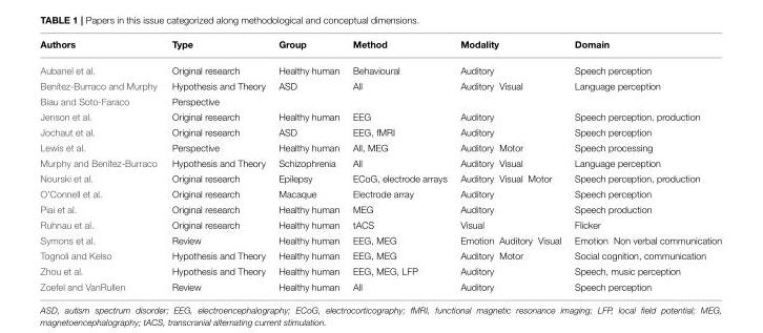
<table><thead><tr><td>Authors</td><td>Type</td><td>Group</td><td>Method</td><td>Modality</td><td>Domain</td></tr></thead><tbody><tr><td>Aubanel et al.</td><td>Original research</td><td>Healthy human</td><td>Behavioural</td><td>Auditory</td><td>Speech perception</td></tr><tr><td>Benítez-Burraco and Murphy</td><td>Hypothesis and Theory</td><td>ASD</td><td>All</td><td>Auditory Visual</td><td>Language perception</td></tr><tr><td>Biau and Soto-Faraco</td><td>Perspective</td><td></td><td></td><td></td><td></td></tr><tr><td>Jenson et al.</td><td>Original research</td><td>Healthy human</td><td>EEG</td><td>Auditory</td><td>Speech perception, production</td></tr><tr><td>Jochaut et al.</td><td>Original research</td><td>ASD</td><td>EEG, fMRI</td><td>Auditory</td><td>Speech perception</td></tr><tr><td>Lewis et al.</td><td>Perspective</td><td>Healthy human</td><td>All, MEG</td><td>Auditory Motor</td><td>Speech processing</td></tr><tr><td>Murphy and Benítez-Burraco</td><td>Hypothesis and Theory</td><td>Schizophrenia</td><td>All</td><td>Auditory Visual</td><td>Language perception</td></tr><tr><td>Nourski et al.</td><td>Original research</td><td>Epilepsy</td><td>ECoG, electrode arrays</td><td>Auditory Visual Motor</td><td>Speech perception, production</td></tr><tr><td>O’Connell et al.</td><td>Original research</td><td>Macaque</td><td>Electrode array</td><td>Auditory</td><td>Speech perception</td></tr><tr><td>Piai et al.</td><td>Original research</td><td>Healthy human</td><td>MEG</td><td>Auditory</td><td>Speech production</td></tr><tr><td>Ruhnau et al.</td><td>Original research</td><td>Healthy human</td><td>tACS</td><td>Visual</td><td>Flicker</td></tr><tr><td>Symons et al.</td><td>Review</td><td>Healthy human</td><td>EEG, MEG</td><td>Emotion Auditory Visual</td><td>Emotion Non verbal communication</td></tr><tr><td>Tognoli and Kelso</td><td>Hypothesis and Theory</td><td>Healthy human</td><td>EEG, MEG</td><td>Auditory Motor</td><td>Social cognition, communication</td></tr><tr><td>Zhou et al.</td><td>Hypothesis and Theory</td><td>Healthy human</td><td>EEG, MEG, LFP</td><td>Auditory</td><td>Speech, music perception</td></tr><tr><td>Zoefel and VanRullen</td><td>Review</td><td>Healthy human</td><td>All</td><td>Auditory</td><td>Speech perception</td></tr></tbody></table>